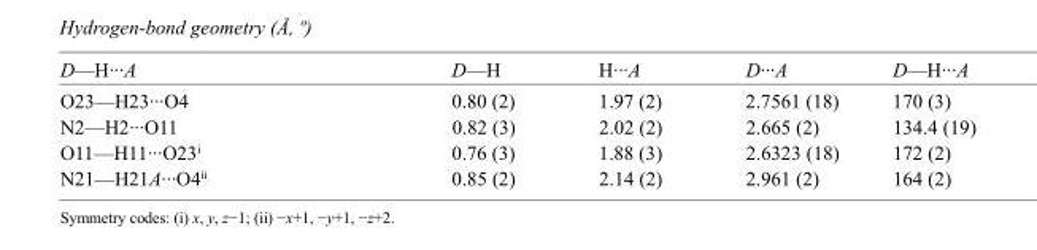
<table><tbody><tr><td>D—H···A</td><td>D—H</td><td>H···A</td><td>D···A</td><td>D—H···A</td></tr><tr><td>O23—H23···O4</td><td>0.80 (2)</td><td>1.97 (2)</td><td>2.7561 (18)</td><td>170 (3)</td></tr><tr><td>N2—H2···O11</td><td>0.82 (3)</td><td>2.02 (2)</td><td>2.665 (2)</td><td>134.4 (19)</td></tr><tr><td>O11—H11···O23<sup>i</sup></td><td>0.76 (3)</td><td>1.88 (3)</td><td>2.6323 (18)</td><td>172 (2)</td></tr><tr><td>N21—H21A···O4<sup>ii</sup></td><td>0.85 (2)</td><td>2.14 (2)</td><td>2.961 (2)</td><td>164 (2)</td></tr></tbody></table>